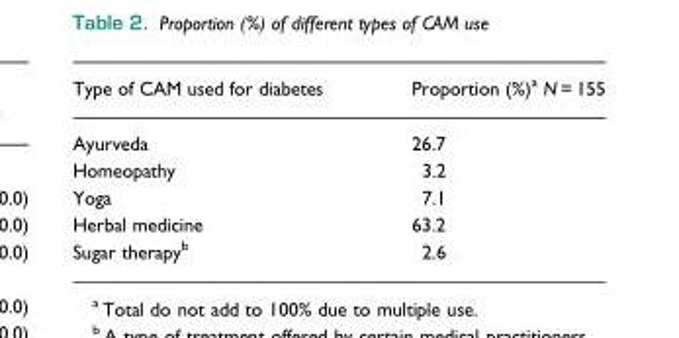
<table><thead><tr><td>Type of CAM used for diabetes</td><td>Proportion (%)<sup>a</sup> N = 155</td></tr></thead><tbody><tr><td>Ayurveda</td><td>26.7</td></tr><tr><td>Homeopathy</td><td>3.2</td></tr><tr><td>Yoga</td><td>7.1</td></tr><tr><td>Herbal medicine</td><td>63.2</td></tr><tr><td>Sugar therapy<sup>b</sup></td><td>2.6</td></tr></tbody></table>